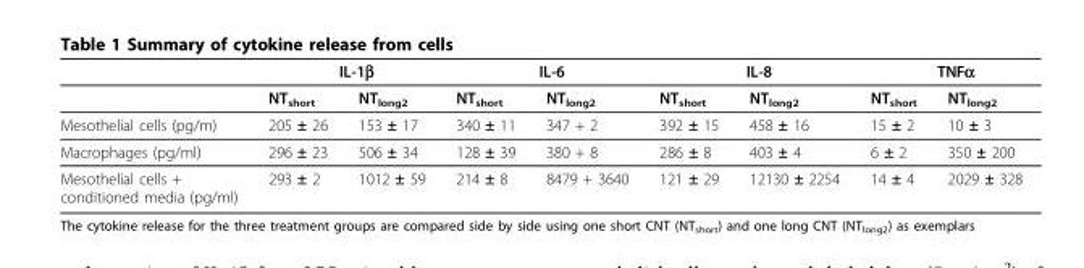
<table><thead><tr><td rowspan="2"></td><td colspan="2">IL-1β</td><td colspan="2">IL-6</td><td colspan="2">IL-8</td><td colspan="2">TNFα</td></tr><tr><td>NT<sub>short</sub></td><td>NT<sub>long2</sub></td><td>NT<sub>short</sub></td><td>NT<sub>long2</sub></td><td>NT<sub>short</sub></td><td>NT<sub>long2</sub></td><td>NT<sub>short</sub></td><td>NT<sub>long2</sub></td></tr></thead><tbody><tr><td>Mesothelial cells (pg/m)</td><td>205 ± 26</td><td>153 ± 17</td><td>340 ± 11</td><td>347 + 2</td><td>392 ± 15</td><td>458 ± 16</td><td>15 ± 2</td><td>10 ± 3</td></tr><tr><td>Macrophages (pg/ml)</td><td>296 ± 23</td><td>506 ± 34</td><td>128 ± 39</td><td>380 + 8</td><td>286 ± 8</td><td>403 ± 4</td><td>6 ± 2</td><td>350 ± 200</td></tr><tr><td>Mesothelial cells + conditioned media (pg/ml)</td><td>293 ± 2</td><td>1012 ± 59</td><td>214 ± 8</td><td>8479 + 3640</td><td>121 ± 29</td><td>12130 ± 2254</td><td>14 ± 4</td><td>2029 ± 328</td></tr></tbody></table>